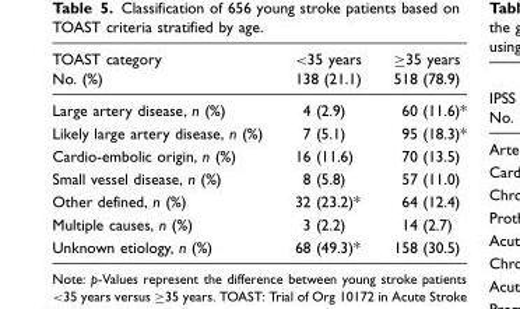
<table><thead><tr><td>TOAST category No. (%)</td><td>&lt;35 years 138 (21.1)</td><td>≥35 years 518 (78.9)</td></tr></thead><tbody><tr><td>Large artery disease, n (%)</td><td>4 (2.9)</td><td>60 (11.6)*</td></tr><tr><td>Likely large artery disease, n (%)</td><td>7 (5.1)</td><td>95 (18.3)*</td></tr><tr><td>Cardio-embolic origin, n (%)</td><td>16 (11.6)</td><td>70 (13.5)</td></tr><tr><td>Small vessel disease, n (%)</td><td>8 (5.8)</td><td>57 (11.0)</td></tr><tr><td>Other defined, n (%)</td><td>32 (23.2)*</td><td>64 (12.4)</td></tr><tr><td>Multiple causes, n (%)</td><td>3 (2.2)</td><td>14 (2.7)</td></tr><tr><td>Unknown etiology, n (%)</td><td>68 (49.3)*</td><td>158 (30.5)</td></tr></tbody></table>